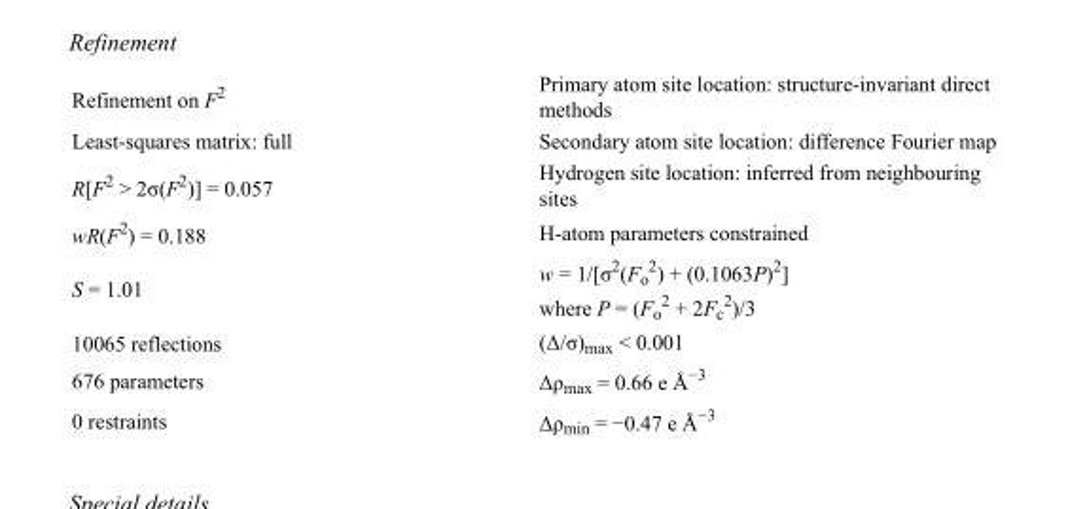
<table><tbody><tr><td>Refinement on F<sup>2</sup></td><td>Primary atom site location: structure-invariant direct methods</td></tr><tr><td>Least-squares matrix: full</td><td>Secondary atom site location: difference Fourier map</td></tr><tr><td>R[F<sup>2</sup> &gt; 2σ(F<sup>2</sup>)] = 0.057</td><td>Hydrogen site location: inferred from neighbouring sites</td></tr><tr><td>wR(F<sup>2</sup>) = 0.188</td><td>H-atom parameters constrained</td></tr><tr><td>S = 1.01</td><td>w = 1/[σ<sup>2</sup>(F<sub>o</sub> <sup>2</sup>) + (0.1063P)<sup>2</sup>] where P = (F<sub>o</sub> <sup>2</sup> + 2F<sub>c</sub> <sup>2</sup>)/3</td></tr><tr><td>10065 reflections</td><td>(Δ/σ)<sub>max</sub> &lt; 0.001</td></tr><tr><td>676 parameters</td><td>Δρ<sub>max</sub> = 0.66 e Å<sup>−3</sup></td></tr><tr><td>0 restraints</td><td>Δρ<sub>min</sub> = −0.47 e Å<sup>−3</sup></td></tr></tbody></table>